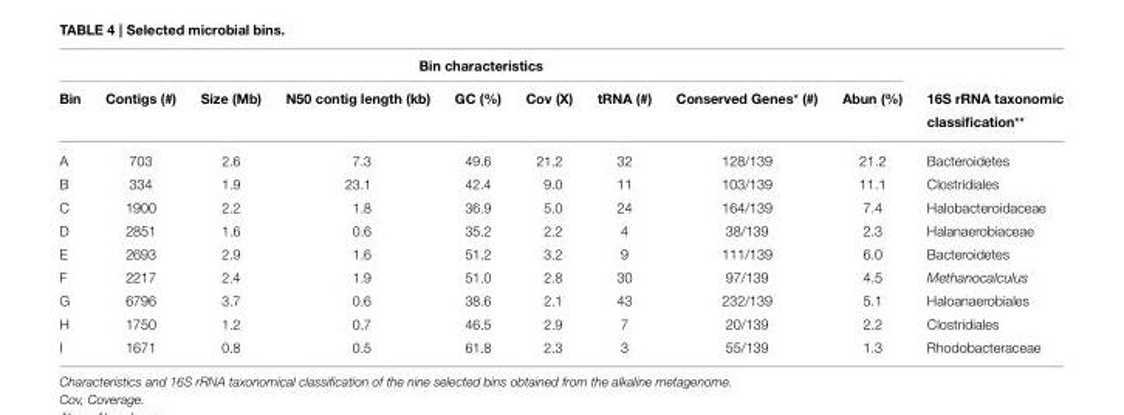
<table><thead><tr><td colspan="9">Bin characteristics</td><td rowspan="2">16S rRNA taxonomic classification**</td></tr><tr><td>Bin</td><td>Contigs (#)</td><td>Size (Mb)</td><td>N50 contig length (kb)</td><td>GC (%)</td><td>Cov (X)</td><td>tRNA (#)</td><td>Conserved Genes* (#)</td><td>Abun (%)</td></tr></thead><tbody><tr><td>A</td><td>703</td><td>2.6</td><td>7.3</td><td>49.6</td><td>21.2</td><td>32</td><td>128/139</td><td>21.2</td><td>Bacteroidetes</td></tr><tr><td>B</td><td>334</td><td>1.9</td><td>23.1</td><td>42.4</td><td>9.0</td><td>11</td><td>103/139</td><td>11.1</td><td>Clostridiales</td></tr><tr><td>C</td><td>1900</td><td>2.2</td><td>1.8</td><td>36.9</td><td>5.0</td><td>24</td><td>164/139</td><td>7.4</td><td>Halobacteroidaceae</td></tr><tr><td>D</td><td>2851</td><td>1.6</td><td>0.6</td><td>35.2</td><td>2.2</td><td>4</td><td>38/139</td><td>2.3</td><td>Halanaerobiaceae</td></tr><tr><td>E</td><td>2693</td><td>2.9</td><td>1.6</td><td>51.2</td><td>3.2</td><td>9</td><td>111/139</td><td>6.0</td><td>Bacteroidetes</td></tr><tr><td>F</td><td>2217</td><td>2.4</td><td>1.9</td><td>51.0</td><td>2.8</td><td>30</td><td>97/139</td><td>4.5</td><td>Methanocalculus</td></tr><tr><td>G</td><td>6796</td><td>3.7</td><td>0.6</td><td>38.6</td><td>2.1</td><td>43</td><td>232/139</td><td>5.1</td><td>Haloanaerobiales</td></tr><tr><td>H</td><td>1750</td><td>1.2</td><td>0.7</td><td>46.5</td><td>2.9</td><td>7</td><td>20/139</td><td>2.2</td><td>Clostridiales</td></tr><tr><td>I</td><td>1671</td><td>0.8</td><td>0.5</td><td>61.8</td><td>2.3</td><td>3</td><td>55/139</td><td>1.3</td><td>Rhodobacteraceae</td></tr></tbody></table>